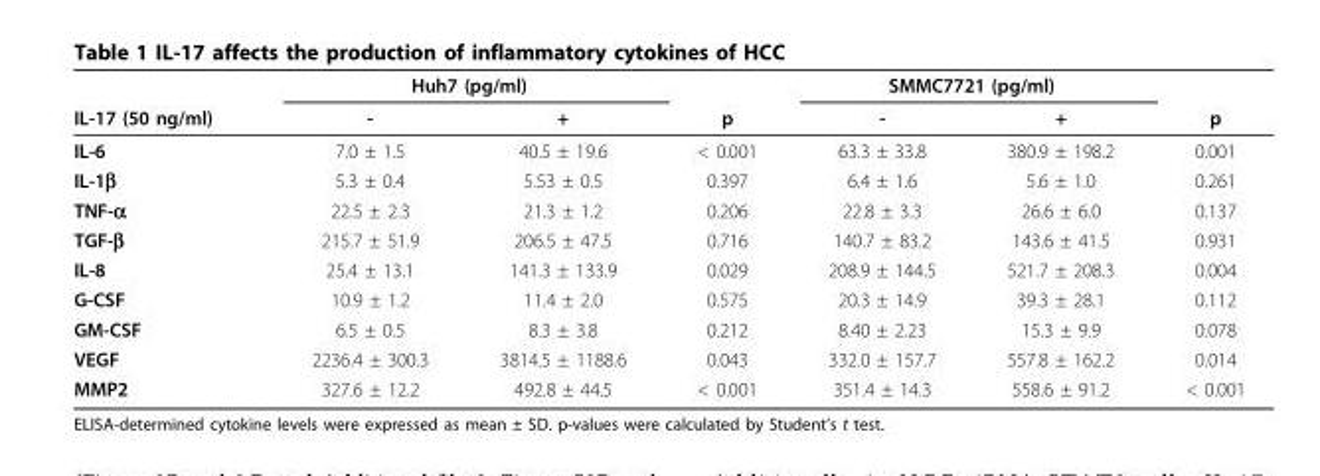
<table><thead><tr><td rowspan="2">IL-17 (50 ng/ml)</td><td colspan="2">Huh7 (pg/ml)</td><td rowspan="2">p</td><td colspan="2">SMMC7721 (pg/ml)</td><td rowspan="2">p</td></tr><tr><td>-</td><td>+</td><td>-</td><td>+</td></tr></thead><tbody><tr><td>IL-6</td><td>7.0 ± 1.5</td><td>40.5 ± 19.6</td><td>&lt; 0.001</td><td>63.3 ± 33.8</td><td>380.9 ± 198.2</td><td>0.001</td></tr><tr><td>IL-1β</td><td>5.3 ± 0.4</td><td>5.53 ± 0.5</td><td>0.397</td><td>6.4 ± 1.6</td><td>5.6 ± 1.0</td><td>0.261</td></tr><tr><td>TNF-α</td><td>22.5 ± 2.3</td><td>21.3 ± 1.2</td><td>0.206</td><td>22.8 ± 3.3</td><td>26.6 ± 6.0</td><td>0.137</td></tr><tr><td>TGF-β</td><td>215.7 ± 51.9</td><td>206.5 ± 47.5</td><td>0.716</td><td>140.7 ± 83.2</td><td>143.6 ± 41.5</td><td>0.931</td></tr><tr><td>IL-8</td><td>25.4 ± 13.1</td><td>141.3 ± 133.9</td><td>0.029</td><td>208.9 ± 144.5</td><td>521.7 ± 208.3</td><td>0.004</td></tr><tr><td>G-CSF</td><td>10.9 ± 1.2</td><td>11.4 ± 2.0</td><td>0.575</td><td>20.3 ± 14.9</td><td>39.3 ± 28.1</td><td>0.112</td></tr><tr><td>GM-CSF</td><td>6.5 ± 0.5</td><td>8.3 ± 3.8</td><td>0.212</td><td>8.40 ± 2.23</td><td>15.3 ± 9.9</td><td>0.078</td></tr><tr><td>VEGF</td><td>2236.4 ± 300.3</td><td>3814.5 ± 1188.6</td><td>0.043</td><td>332.0 ± 157.7</td><td>557.8 ± 162.2</td><td>0.014</td></tr><tr><td>MMP2</td><td>327.6 ± 12.2</td><td>492.8 ± 44.5</td><td>&lt; 0.001</td><td>351.4 ± 14.3</td><td>558.6 ± 91.2</td><td>&lt; 0.001</td></tr></tbody></table>